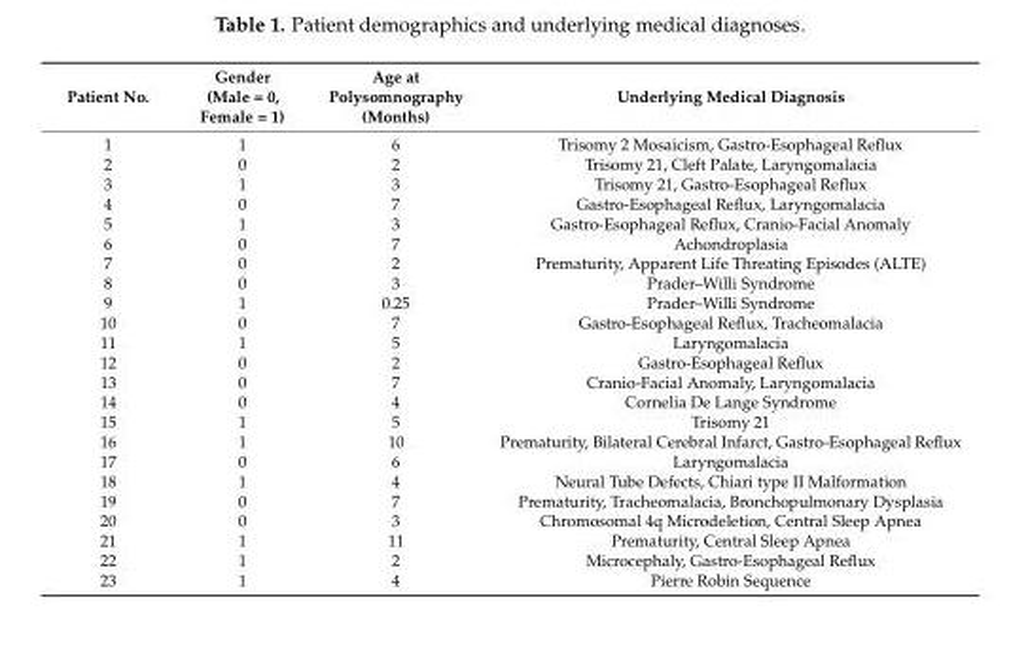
<table><thead><tr><td>Patient No.</td><td>Gender (Male = 0, Female = 1)</td><td>Age at Polysomnography (Months)</td><td>Underlying Medical Diagnosis</td></tr></thead><tbody><tr><td>1</td><td>1</td><td>6</td><td>Trisomy 2 Mosaicism, Gastro-Esophageal Reflux</td></tr><tr><td>2</td><td>0</td><td>2</td><td>Trisomy 21, Cleft Palate, Laryngomalacia</td></tr><tr><td>3</td><td>1</td><td>3</td><td>Trisomy 21, Gastro-Esophageal Reflux</td></tr><tr><td>4</td><td>0</td><td>7</td><td>Gastro-Esophageal Reflux, Laryngomalacia</td></tr><tr><td>5</td><td>1</td><td>3</td><td>Gastro-Esophageal Reflux, Cranio-Facial Anomaly</td></tr><tr><td>6</td><td>0</td><td>7</td><td>Achondroplasia</td></tr><tr><td>7</td><td>0</td><td>2</td><td>Prematurity, Apparent Life Threating Episodes (ALTE)</td></tr><tr><td>8</td><td>0</td><td>3</td><td>Prader–Willi Syndrome</td></tr><tr><td>9</td><td>1</td><td>0.25</td><td>Prader–Willi Syndrome</td></tr><tr><td>10</td><td>0</td><td>7</td><td>Gastro-Esophageal Reflux, Tracheomalacia</td></tr><tr><td>11</td><td>1</td><td>5</td><td>Laryngomalacia</td></tr><tr><td>12</td><td>0</td><td>2</td><td>Gastro-Esophageal Reflux</td></tr><tr><td>13</td><td>0</td><td>7</td><td>Cranio-Facial Anomaly, Laryngomalacia</td></tr><tr><td>14</td><td>0</td><td>4</td><td>Cornelia De Lange Syndrome</td></tr><tr><td>15</td><td>1</td><td>5</td><td>Trisomy 21</td></tr><tr><td>16</td><td>1</td><td>10</td><td>Prematurity, Bilateral Cerebral Infarct, Gastro-Esophageal Reflux</td></tr><tr><td>17</td><td>0</td><td>6</td><td>Laryngomalacia</td></tr><tr><td>18</td><td>1</td><td>4</td><td>Neural Tube Defects, Chiari type II Malformation</td></tr><tr><td>19</td><td>0</td><td>7</td><td>Prematurity, Tracheomalacia, Bronchopulmonary Dysplasia</td></tr><tr><td>20</td><td>0</td><td>3</td><td>Chromosomal 4q Microdeletion, Central Sleep Apnea</td></tr><tr><td>21</td><td>1</td><td>11</td><td>Prematurity, Central Sleep Apnea</td></tr><tr><td>22</td><td>1</td><td>2</td><td>Microcephaly, Gastro-Esophageal Reflux</td></tr><tr><td>23</td><td>1</td><td>4</td><td>Pierre Robin Sequence</td></tr></tbody></table>